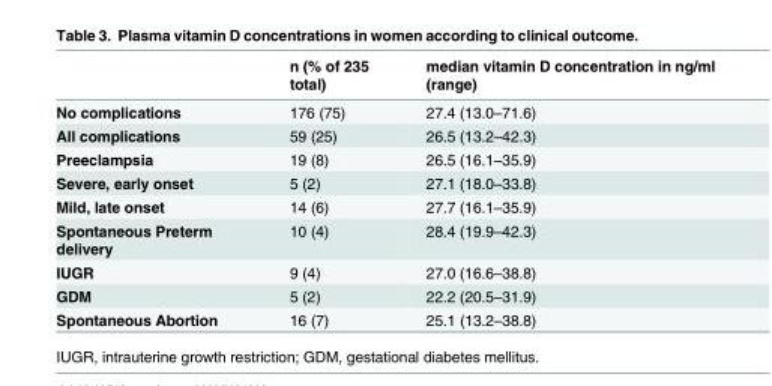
<table><thead><tr><td></td><td>n (% of 235 total)</td><td>median vitamin D concentration in ng/ml (range)</td></tr></thead><tbody><tr><td>No complications</td><td>176 (75)</td><td>27.4 (13.0–71.6)</td></tr><tr><td>All complications</td><td>59 (25)</td><td>26.5 (13.2–42.3)</td></tr><tr><td>Preeclampsia</td><td>19 (8)</td><td>26.5 (16.1–35.9)</td></tr><tr><td>Severe, early onset</td><td>5 (2)</td><td>27.1 (18.0–33.8)</td></tr><tr><td>Mild, late onset</td><td>14 (6)</td><td>27.7 (16.1–35.9)</td></tr><tr><td>Spontaneous Preterm delivery</td><td>10 (4)</td><td>28.4 (19.9–42.3)</td></tr><tr><td>IUGR</td><td>9 (4)</td><td>27.0 (16.6–38.8)</td></tr><tr><td>GDM</td><td>5 (2)</td><td>22.2 (20.5–31.9)</td></tr><tr><td>Spontaneous Abortion</td><td>16 (7)</td><td>25.1 (13.2–38.8)</td></tr></tbody></table>